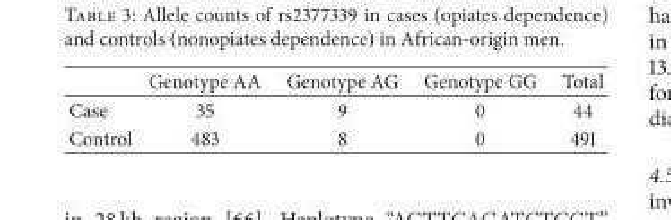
<table><thead><tr><td></td><td>Genotype AA</td><td>Genotype AG</td><td>Genotype GG</td><td>Total</td></tr></thead><tbody><tr><td>Case</td><td>35</td><td>9</td><td>0</td><td>44</td></tr><tr><td>Control</td><td>483</td><td>8</td><td>0</td><td>491</td></tr></tbody></table>